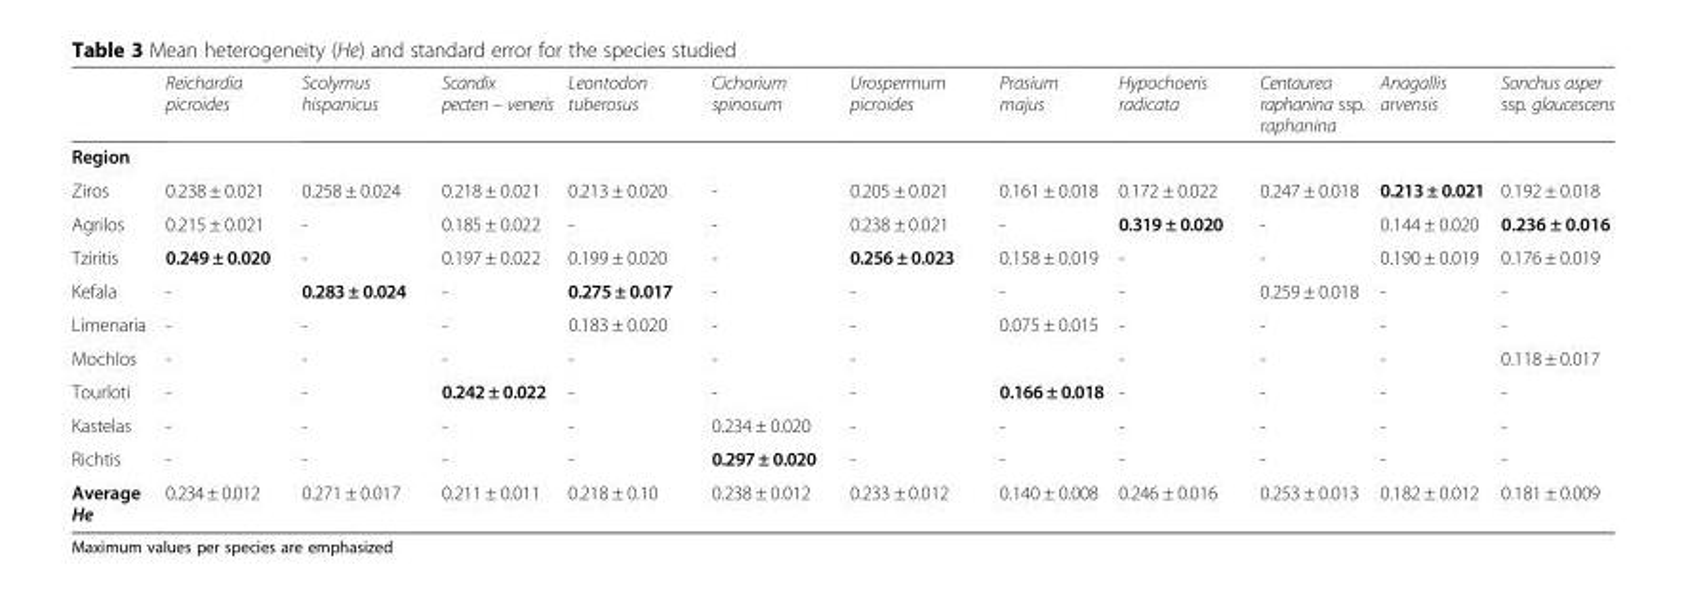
<table><thead><tr><td></td><td>Reichardia picroides</td><td>Scolymus hispanicus</td><td>Scandix pecten – veneris</td><td>Leontodon tuberosus</td><td>Cichorium spinosum</td><td>Urospermum picroides</td><td>Prasium majus</td><td>Hypochoeris radicata</td><td>Centaurea raphanina ssp. raphanina</td><td>Anagallis arvensis</td><td>Sonchus asper ssp. glaucescens</td></tr></thead><tbody><tr><td colspan="12">Region</td></tr><tr><td>Ziros</td><td>0.238 ± 0.021</td><td>0.258 ± 0.024</td><td>0.218 ± 0.021</td><td>0.213 ± 0.020</td><td>-</td><td>0.205 ± 0.021</td><td>0.161 ± 0.018</td><td>0.172 ± 0.022</td><td>0.247 ± 0.018</td><td>0.213 ± 0.021</td><td>0.192 ± 0.018</td></tr><tr><td>Αgrilos</td><td>0.215 ± 0.021</td><td>-</td><td>0.185 ± 0.022</td><td>-</td><td>-</td><td>0.238 ± 0.021</td><td>-</td><td>0.319 ± 0.020</td><td>-</td><td>0.144 ± 0.020</td><td>0.236 ± 0.016</td></tr><tr><td>Τziritis</td><td>0.249 ± 0.020</td><td>-</td><td>0.197 ± 0.022</td><td>0.199 ± 0.020</td><td>-</td><td>0.256 ± 0.023</td><td>0.158 ± 0.019</td><td>-</td><td>-</td><td>0.190 ± 0.019</td><td>0.176 ± 0.019</td></tr><tr><td>Κefala</td><td>-</td><td>0.283 ± 0.024</td><td>-</td><td>0.275 ± 0.017</td><td>-</td><td>-</td><td>-</td><td>-</td><td>0.259 ± 0.018</td><td>-</td><td>-</td></tr><tr><td>Limenaria</td><td>-</td><td>-</td><td>-</td><td>0.183 ± 0.020</td><td>-</td><td>-</td><td>0.075 ± 0.015</td><td>-</td><td>-</td><td>-</td><td>-</td></tr><tr><td>Mochlos</td><td>-</td><td>-</td><td>-</td><td>-</td><td>-</td><td>-</td><td></td><td>-</td><td>-</td><td>-</td><td>0.118 ± 0.017</td></tr><tr><td>Τοurloti</td><td>-</td><td>-</td><td>0.242 ± 0.022</td><td>-</td><td>-</td><td>-</td><td>0.166 ± 0.018</td><td>-</td><td>-</td><td>-</td><td>-</td></tr><tr><td>Κastelas</td><td>-</td><td>-</td><td>-</td><td>-</td><td>0.234 ± 0.020</td><td>-</td><td>-</td><td>-</td><td>-</td><td>-</td><td>-</td></tr><tr><td>Richtis</td><td>-</td><td>-</td><td>-</td><td>-</td><td>0.297 ± 0.020</td><td>-</td><td>-</td><td>-</td><td>-</td><td>-</td><td>-</td></tr><tr><td>Average He</td><td>0.234 ± 0.012</td><td>0.271 ± 0.017</td><td>0.211 ± 0.011</td><td>0.218 ± 0.10</td><td>0.238 ± 0.012</td><td>0.233 ± 0.012</td><td>0.140 ± 0.008</td><td>0.246 ± 0.016</td><td>0.253 ± 0.013</td><td>0.182 ± 0.012</td><td>0.181 ± 0.009</td></tr></tbody></table>